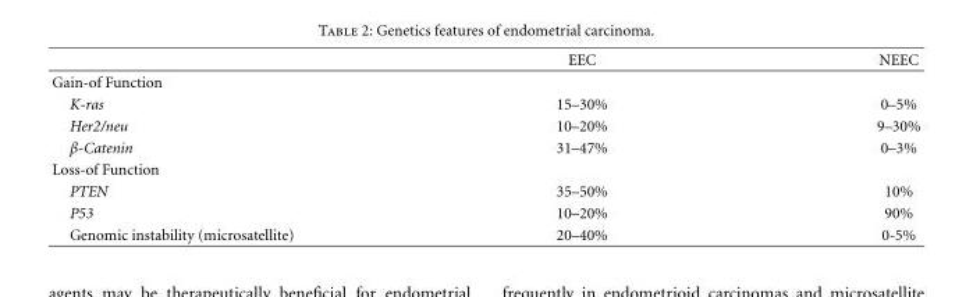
<table><thead><tr><td></td><td>EEC</td><td>NEEC</td></tr></thead><tbody><tr><td colspan="3">Gain-of Function</td></tr><tr><td>K-ras</td><td>15–30%</td><td>0–5%</td></tr><tr><td>Her2/neu</td><td>10–20%</td><td>9–30%</td></tr><tr><td>β-Catenin</td><td>31–47%</td><td>0–3%</td></tr><tr><td colspan="3">Loss-of Function</td></tr><tr><td>PTEN</td><td>35–50%</td><td>10%</td></tr><tr><td>P53</td><td>10–20%</td><td>90%</td></tr><tr><td>Genomic instability (microsatellite)</td><td>20–40%</td><td>0-5%</td></tr></tbody></table>